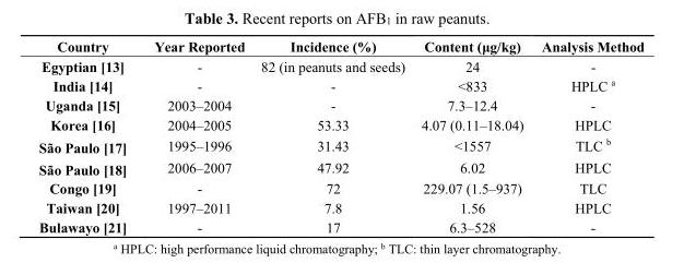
<table><thead><tr><td>Country</td><td>Year Reported</td><td>Incidence (%)</td><td>Content (μg/kg)</td><td>Analysis Method</td></tr></thead><tbody><tr><td>Egyptian [13]</td><td>-</td><td>82 (in peanuts and seeds)</td><td>24</td><td>-</td></tr><tr><td>India [14]</td><td>-</td><td>-</td><td>&lt;833</td><td>HPLC <sup>a</sup></td></tr><tr><td>Uganda [15]</td><td>2003–2004</td><td>-</td><td>7.3–12.4</td><td>-</td></tr><tr><td>Korea [16]</td><td>2004–2005</td><td>53.33</td><td>4.07 (0.11–18.04)</td><td>HPLC</td></tr><tr><td>São Paulo [17]</td><td>1995–1996</td><td>31.43</td><td>&lt;1557</td><td>TLC <sup>b</sup></td></tr><tr><td>São Paulo [18]</td><td>2006–2007</td><td>47.92</td><td>6.02</td><td>HPLC</td></tr><tr><td>Congo [19]</td><td>-</td><td>72</td><td>229.07 (1.5–937)</td><td>TLC</td></tr><tr><td>Taiwan [20]</td><td>1997–2011</td><td>7.8</td><td>1.56</td><td>HPLC</td></tr><tr><td>Bulawayo [21]</td><td>-</td><td>17</td><td>6.3–528</td><td>-</td></tr></tbody></table>